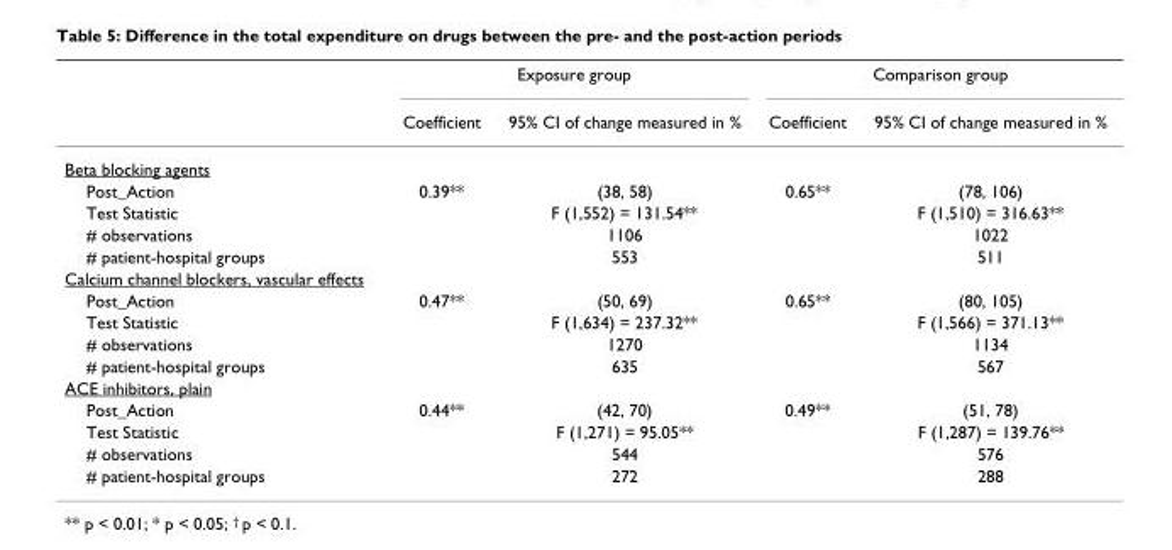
<table><thead><tr><td rowspan="2"></td><td colspan="2">Exposure group</td><td colspan="2">Comparison group</td></tr><tr><td>Coefficient</td><td>95% CI of change measured in %</td><td>Coefficient</td><td>95% CI of change measured in %</td></tr></thead><tbody><tr><td colspan="5">Beta blocking agents</td></tr><tr><td>Post_Action</td><td>0.39**</td><td>(38, 58)</td><td>0.65**</td><td>(78, 106)</td></tr><tr><td>Test Statistic</td><td></td><td>F (1,552) = 131.54**</td><td></td><td>F (1,510) = 316.63**</td></tr><tr><td># observations</td><td></td><td>1106</td><td></td><td>1022</td></tr><tr><td># patient-hospital groups</td><td></td><td>553</td><td></td><td>511</td></tr><tr><td colspan="5">Calcium channel blockers, vascular effects</td></tr><tr><td>Post_Action</td><td>0.47**</td><td>(50, 69)</td><td>0.65**</td><td>(80, 105)</td></tr><tr><td>Test Statistic</td><td></td><td>F (1,634) = 237.32**</td><td></td><td>F (1,566) = 371.13**</td></tr><tr><td># observations</td><td></td><td>1270</td><td></td><td>1134</td></tr><tr><td># patient-hospital groups</td><td></td><td>635</td><td></td><td>567</td></tr><tr><td colspan="5">ACE inhibitors, plain</td></tr><tr><td>Post_Action</td><td>0.44**</td><td>(42, 70)</td><td>0.49**</td><td>(51, 78)</td></tr><tr><td>Test Statistic</td><td></td><td>F (1,271) = 95.05**</td><td></td><td>F (1,287) = 139.76**</td></tr><tr><td># observations</td><td></td><td>544</td><td></td><td>576</td></tr><tr><td># patient-hospital groups</td><td></td><td>272</td><td></td><td>288</td></tr></tbody></table>